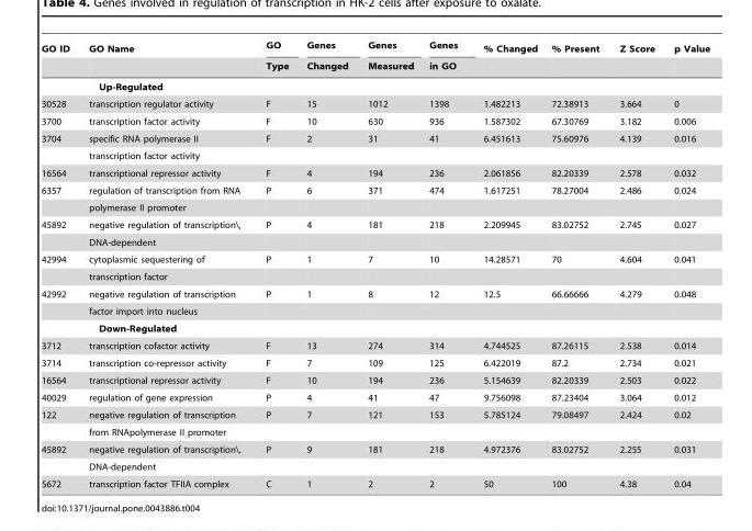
<table><thead><tr><td rowspan="2">GO ID</td><td rowspan="2">GO Name</td><td rowspan="2">GO Type</td><td rowspan="2">Genes Changed</td><td rowspan="2">Genes Measured</td><td rowspan="2">Genes in GO</td><td rowspan="2">% Changed</td><td rowspan="2">% Present</td><td rowspan="2">Z Score</td><td rowspan="2">p Value</td></tr><tr></tr></thead><tbody><tr><td></td><td>Up-Regulated</td><td></td><td></td><td></td><td></td><td></td><td></td><td></td><td></td></tr><tr><td>30528</td><td>transcription regulator activity</td><td>F</td><td>15</td><td>1012</td><td>1398</td><td>1.482213</td><td>72.38913</td><td>3.664</td><td>0</td></tr><tr><td>3700</td><td>transcription factor activity</td><td>F</td><td>10</td><td>630</td><td>936</td><td>1.587302</td><td>67.30769</td><td>3.182</td><td>0.006</td></tr><tr><td rowspan="2">3704</td><td>specific RNA polymerase II</td><td>F</td><td>2</td><td>31</td><td>41</td><td>6.451613</td><td>75.60976</td><td>4.139</td><td>0.016</td></tr><tr><td>transcription factor activity</td><td></td><td></td><td></td><td></td><td></td><td></td><td></td><td></td></tr><tr><td>16564</td><td>transcriptional repressor activity</td><td>F</td><td>4</td><td>194</td><td>236</td><td>2.061856</td><td>82.20339</td><td>2.578</td><td>0.032</td></tr><tr><td rowspan="2">6357</td><td>regulation of transcription from RNA</td><td>P</td><td>6</td><td>371</td><td>474</td><td>1.617251</td><td>78.27004</td><td>2.486</td><td>0.024</td></tr><tr><td>polymerase II promoter</td><td></td><td></td><td></td><td></td><td></td><td></td><td></td><td></td></tr><tr><td rowspan="2">45892</td><td>negative regulation of transcription\,</td><td>P</td><td>4</td><td>181</td><td>218</td><td>2.209945</td><td>83.02752</td><td>2.745</td><td>0.027</td></tr><tr><td>DNA-dependent</td><td></td><td></td><td></td><td></td><td></td><td></td><td></td><td></td></tr><tr><td rowspan="2">42994</td><td>cytoplasmic sequestering of</td><td>P</td><td>1</td><td>7</td><td>10</td><td>14.28571</td><td>70</td><td>4.604</td><td>0.041</td></tr><tr><td>transcription factor</td><td></td><td></td><td></td><td></td><td></td><td></td><td></td><td></td></tr><tr><td rowspan="3">42992</td><td>negative regulation of transcription</td><td>P</td><td>1</td><td>8</td><td>12</td><td>12.5</td><td>66.66666</td><td>4.279</td><td>0.048</td></tr><tr><td>factor import into nucleus</td><td></td><td></td><td></td><td></td><td></td><td></td><td></td><td></td></tr><tr><td>Down-Regulated</td><td></td><td></td><td></td><td></td><td></td><td></td><td></td><td></td></tr><tr><td>3712</td><td>transcription cofactor activity</td><td>F</td><td>13</td><td>274</td><td>314</td><td>4.744525</td><td>87.26115</td><td>2.538</td><td>0.014</td></tr><tr><td>3714</td><td>transcription co-repressor activity</td><td>F</td><td>7</td><td>109</td><td>125</td><td>6.422019</td><td>87.2</td><td>2.734</td><td>0.021</td></tr><tr><td>16564</td><td>transcriptional repressor activity</td><td>F</td><td>10</td><td>194</td><td>236</td><td>5.154639</td><td>82.20339</td><td>2.503</td><td>0.022</td></tr><tr><td>40029</td><td>regulation of gene expression</td><td>P</td><td>4</td><td>41</td><td>47</td><td>9.756098</td><td>87.23404</td><td>3.064</td><td>0.012</td></tr><tr><td rowspan="2">122</td><td>negative regulation of transcription</td><td>P</td><td>7</td><td>121</td><td>153</td><td>5.785124</td><td>79.08497</td><td>2.424</td><td>0.02</td></tr><tr><td>from RNApolymerase II promoter</td><td></td><td></td><td></td><td></td><td></td><td></td><td></td><td></td></tr><tr><td rowspan="2">45892</td><td>negative regulation of transcription\,</td><td>P</td><td>9</td><td>181</td><td>218</td><td>4.972376</td><td>83.02752</td><td>2.255</td><td>0.031</td></tr><tr><td>DNA-dependent</td><td></td><td></td><td></td><td></td><td></td><td></td><td></td><td></td></tr><tr><td>5672</td><td>transcription factor TFIIA complex</td><td>C</td><td>1</td><td>2</td><td>2</td><td>50</td><td>100</td><td>4.38</td><td>0.04</td></tr></tbody></table>